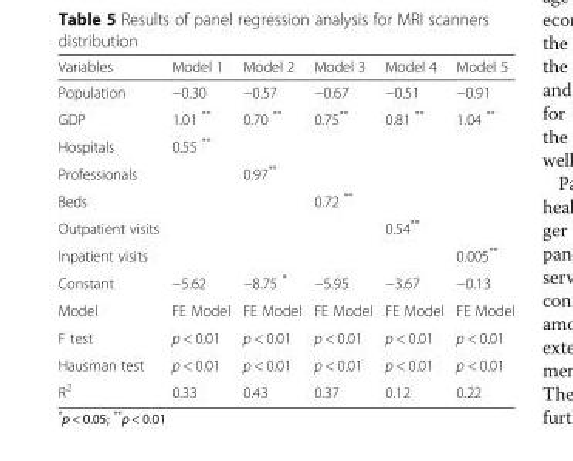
<table><thead><tr><td>Variables</td><td>Model 1</td><td>Model 2</td><td>Model 3</td><td>Model 4</td><td>Model 5</td></tr></thead><tbody><tr><td>Population</td><td>−0.30</td><td>−0.57</td><td>−0.67</td><td>−0.51</td><td>−0.91</td></tr><tr><td>GDP</td><td>1.01 **</td><td>0.70 **</td><td>0.75**</td><td>0.81 **</td><td>1.04 **</td></tr><tr><td>Hospitals</td><td>0.55 **</td><td></td><td></td><td></td><td></td></tr><tr><td>Professionals</td><td></td><td>0.97**</td><td></td><td></td><td></td></tr><tr><td>Beds</td><td></td><td></td><td>0.72 **</td><td></td><td></td></tr><tr><td>Outpatient visits</td><td></td><td></td><td></td><td>0.54**</td><td></td></tr><tr><td>Inpatient visits</td><td></td><td></td><td></td><td></td><td>0.005**</td></tr><tr><td>Constant</td><td>−5.62</td><td>−8.75 *</td><td>−5.95</td><td>−3.67</td><td>−0.13</td></tr><tr><td>Model</td><td>FE Model</td><td>FE Model</td><td>FE Model</td><td>FE Model</td><td>FE Model</td></tr><tr><td>F test</td><td>p &lt; 0.01</td><td>p &lt; 0.01</td><td>p &lt; 0.01</td><td>p &lt; 0.01</td><td>p &lt; 0.01</td></tr><tr><td>Hausman test</td><td>p &lt; 0.01</td><td>p &lt; 0.01</td><td>p &lt; 0.01</td><td>p &lt; 0.01</td><td>p &lt; 0.01</td></tr><tr><td>R<sup>2</sup></td><td>0.33</td><td>0.43</td><td>0.37</td><td>0.12</td><td>0.22</td></tr></tbody></table>